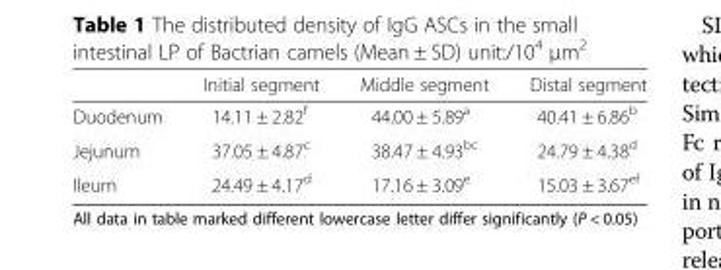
<table><thead><tr><td></td><td>Initial segment</td><td>Middle segment</td><td>Distal segment</td></tr></thead><tbody><tr><td>Duodenum</td><td>14.11 ± 2.82<sup>f</sup></td><td>44.00 ± 5.89<sup>a</sup></td><td>40.41 ± 6.86<sup>b</sup></td></tr><tr><td>Jejunum</td><td>37.05 ± 4.87<sup>c</sup></td><td>38.47 ± 4.93<sup>bc</sup></td><td>24.79 ± 4.38<sup>d</sup></td></tr><tr><td>Ileum</td><td>24.49 ± 4.17<sup>d</sup></td><td>17.16 ± 3.09<sup>e</sup></td><td>15.03 ± 3.67<sup>ef</sup></td></tr></tbody></table>